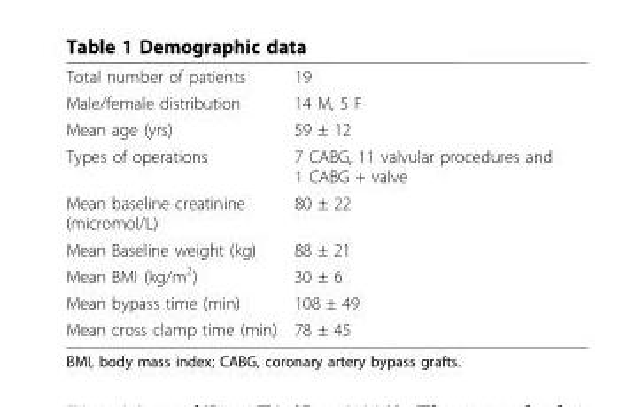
<table><tbody><tr><td>Total number of patients</td><td>19</td></tr><tr><td>Male/female distribution</td><td>14 M, 5 F</td></tr><tr><td>Mean age (yrs)</td><td>59 ± 12</td></tr><tr><td>Types of operations</td><td>7 CABG, 11 valvular procedures and 1 CABG + valve</td></tr><tr><td>Mean baseline creatinine (micromol/L)</td><td>80 ± 22</td></tr><tr><td>Mean Baseline weight (kg)</td><td>88 ± 21</td></tr><tr><td>Mean BMI (kg/m<sup>2</sup>)</td><td>30 ± 6</td></tr><tr><td>Mean bypass time (min)</td><td>108 ± 49</td></tr><tr><td>Mean cross clamp time (min)</td><td>78 ± 45</td></tr></tbody></table>